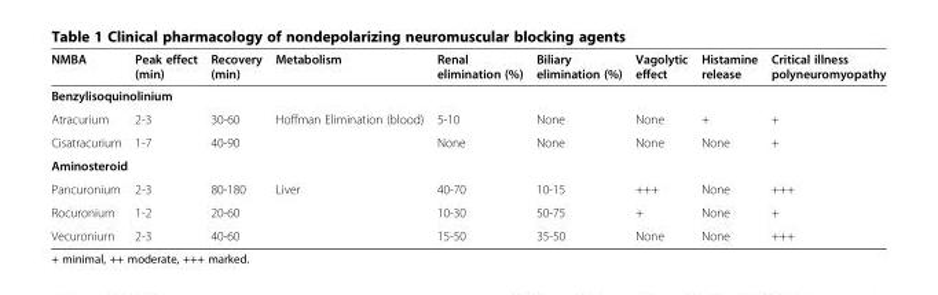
<table><thead><tr><td>NMBA</td><td>Peak effect (min)</td><td>Recovery (min)</td><td>Metabolism</td><td>Renal elimination (%)</td><td>Biliary elimination (%)</td><td>Vagolytic effect</td><td>Histamine release</td><td>Critical illness polyneuromyopathy</td></tr></thead><tbody><tr><td colspan="9">Benzylisoquinolinium</td></tr><tr><td>Atracurium</td><td>2-3</td><td>30-60</td><td rowspan="2">Hoffman Elimination (blood)</td><td>5-10</td><td>None</td><td>None</td><td>+</td><td>+</td></tr><tr><td>Cisatracurium</td><td>1-7</td><td>40-90</td><td>None</td><td>None</td><td>None</td><td>None</td><td>+</td></tr><tr><td colspan="9">Aminosteroid</td></tr><tr><td>Pancuronium</td><td>2-3</td><td>80-180</td><td rowspan="2">Liver</td><td>40-70</td><td>10-15</td><td>+++</td><td>None</td><td>+++</td></tr><tr><td>Rocuronium</td><td>1-2</td><td>20-60</td><td>10-30</td><td>50-75</td><td>+</td><td>None</td><td>+</td></tr><tr><td>Vecuroniurn</td><td>2-3</td><td>40-60</td><td></td><td>15-50</td><td>35-50</td><td>None</td><td>None</td><td>+++</td></tr></tbody></table>